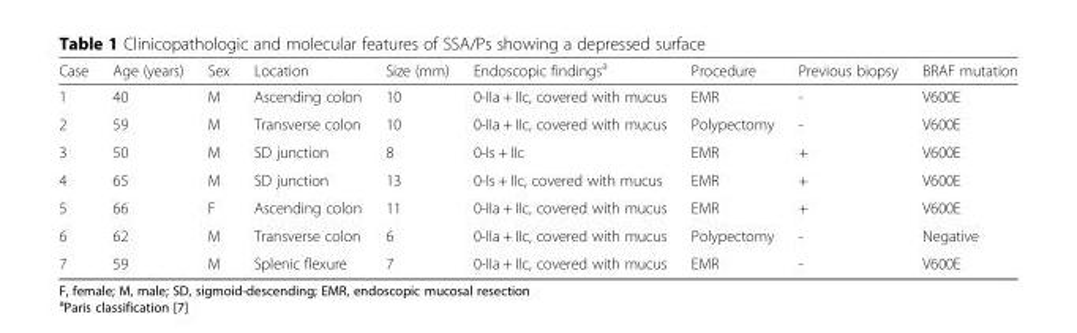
<table><thead><tr><td>Case</td><td>Age (years)</td><td>Sex</td><td>Location</td><td>Size (mm)</td><td>Endoscopic findings<sup>a</sup></td><td>Procedure</td><td>Previous biopsy</td><td>BRAF mutation</td></tr></thead><tbody><tr><td>1</td><td>40</td><td>M</td><td>Ascending colon</td><td>10</td><td>0-IIa + IIc, covered with mucus</td><td>EMR</td><td>-</td><td>V600E</td></tr><tr><td>2</td><td>59</td><td>M</td><td>Transverse colon</td><td>10</td><td>0-IIa + IIc, covered with mucus</td><td>Polypectomy</td><td>-</td><td>V600E</td></tr><tr><td>3</td><td>50</td><td>M</td><td>SD junction</td><td>8</td><td>0-Is + IIc</td><td>EMR</td><td>+</td><td>V600E</td></tr><tr><td>4</td><td>65</td><td>M</td><td>SD junction</td><td>13</td><td>0-Is + IIc, covered with mucus</td><td>EMR</td><td>+</td><td>V600E</td></tr><tr><td>5</td><td>66</td><td>F</td><td>Ascending colon</td><td>11</td><td>0-IIa + IIc, covered with mucus</td><td>EMR</td><td>+</td><td>V600E</td></tr><tr><td>6</td><td>62</td><td>M</td><td>Transverse colon</td><td>6</td><td>0-IIa + IIc, covered with mucus</td><td>Polypectomy</td><td>-</td><td>Negative</td></tr><tr><td>7</td><td>59</td><td>M</td><td>Splenic flexure</td><td>7</td><td>0-IIa + IIc, covered with mucus</td><td>EMR</td><td>-</td><td>V600E</td></tr></tbody></table>